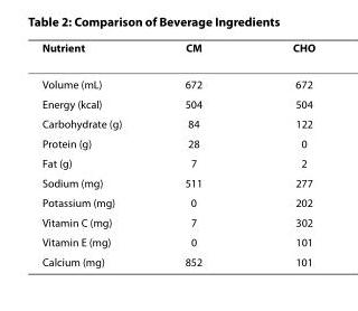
<table><thead><tr><td>Nutrient</td><td>CM</td><td>CHO</td></tr></thead><tbody><tr><td>Volume (mL)</td><td>672</td><td>672</td></tr><tr><td>Energy (kcal)</td><td>504</td><td>504</td></tr><tr><td>Carbohydrate (g)</td><td>84</td><td>122</td></tr><tr><td>Protein (g)</td><td>28</td><td>0</td></tr><tr><td>Fat (g)</td><td>7</td><td>2</td></tr><tr><td>Sodium (mg)</td><td>511</td><td>277</td></tr><tr><td>Potassium (mg)</td><td>0</td><td>202</td></tr><tr><td>Vitamin C (mg)</td><td>7</td><td>302</td></tr><tr><td>Vitamin E (mg)</td><td>0</td><td>101</td></tr><tr><td>Calcium (mg)</td><td>852</td><td>101</td></tr></tbody></table>